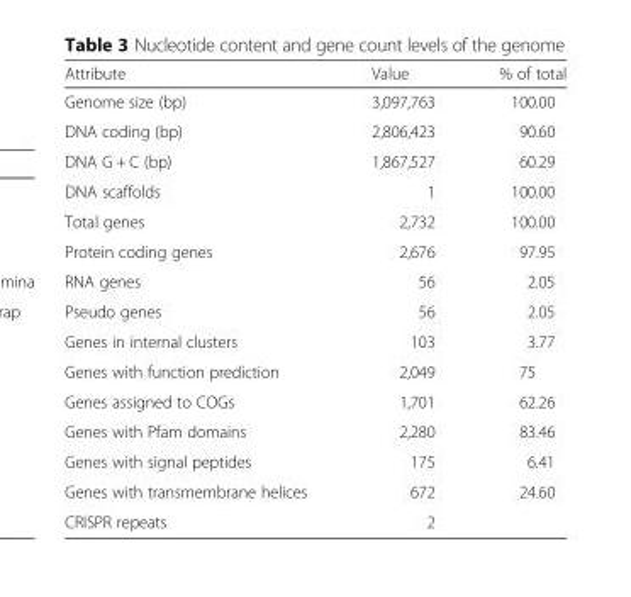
<table><thead><tr><td>Attribute</td><td>Value</td><td>% of total</td></tr></thead><tbody><tr><td>Genome size (bp)</td><td>3,097,763</td><td>100.00</td></tr><tr><td>DNA coding (bp)</td><td>2,806,423</td><td>90.60</td></tr><tr><td>DNA G + C (bp)</td><td>1,867,527</td><td>60.29</td></tr><tr><td>DNA scaffolds</td><td>1</td><td>100.00</td></tr><tr><td>Total genes</td><td>2,732</td><td>100.00</td></tr><tr><td>Protein coding genes</td><td>2,676</td><td>97.95</td></tr><tr><td>RNA genes</td><td>56</td><td>2.05</td></tr><tr><td>Pseudo genes</td><td>56</td><td>2.05</td></tr><tr><td>Genes in internal clusters</td><td>103</td><td>3.77</td></tr><tr><td>Genes with function prediction</td><td>2,049</td><td>75</td></tr><tr><td>Genes assigned to COGs</td><td>1,701</td><td>62.26</td></tr><tr><td>Genes with Pfam domains</td><td>2,280</td><td>83.46</td></tr><tr><td>Genes with signal peptides</td><td>175</td><td>6.41</td></tr><tr><td>Genes with transmembrane helices</td><td>672</td><td>24.60</td></tr><tr><td>CRISPR repeats</td><td>2</td><td></td></tr></tbody></table>